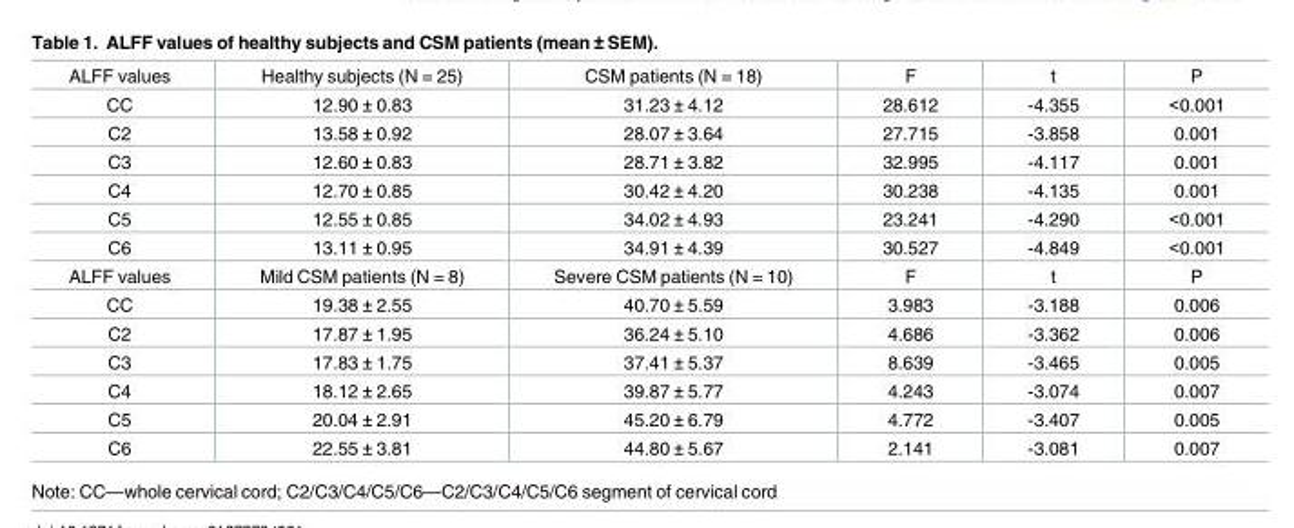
<table><tbody><tr><td>ALFF values</td><td>Healthy subjects (N = 25)</td><td>CSM patients (N = 18)</td><td>F</td><td>t</td><td>P</td></tr><tr><td>CC</td><td>12.90 ± 0.83</td><td>31.23 ± 4.12</td><td>28.612</td><td>-4.355</td><td>&lt;0.001</td></tr><tr><td>C2</td><td>13.58 ± 0.92</td><td>28.07 ± 3.64</td><td>27.715</td><td>-3.858</td><td>0.001</td></tr><tr><td>C3</td><td>12.60 ± 0.83</td><td>28.71 ± 3.82</td><td>32.995</td><td>-4.117</td><td>0.001</td></tr><tr><td>C4</td><td>12.70 ± 0.85</td><td>30.42 ± 4.20</td><td>30.238</td><td>-4.135</td><td>0.001</td></tr><tr><td>C5</td><td>12.55 ± 0.85</td><td>34.02 ± 4.93</td><td>23.241</td><td>-4.290</td><td>&lt;0.001</td></tr><tr><td>C6</td><td>13.11 ± 0.95</td><td>34.91 ± 4.39</td><td>30.527</td><td>-4.849</td><td>&lt;0.001</td></tr><tr><td>ALFF values</td><td>Mild CSM patients (N = 8)</td><td>Severe CSM patients (N = 10)</td><td>F</td><td>t</td><td>P</td></tr><tr><td>CC</td><td>19.38 ± 2.55</td><td>40.70 ± 5.59</td><td>3.983</td><td>-3.188</td><td>0.006</td></tr><tr><td>C2</td><td>17.87 ± 1.95</td><td>36.24 ± 5.10</td><td>4.686</td><td>-3.362</td><td>0.006</td></tr><tr><td>C3</td><td>17.83 ± 1.75</td><td>37.41 ± 5.37</td><td>8.639</td><td>-3.465</td><td>0.005</td></tr><tr><td>C4</td><td>18.12 ± 2.65</td><td>39.87 ± 5.77</td><td>4.243</td><td>-3.074</td><td>0.007</td></tr><tr><td>C5</td><td>20.04 ± 2.91</td><td>45.20 ± 6.79</td><td>4.772</td><td>-3.407</td><td>0.005</td></tr><tr><td>C6</td><td>22.55 ± 3.81</td><td>44.80 ± 5.67</td><td>2.141</td><td>-3.081</td><td>0.007</td></tr></tbody></table>